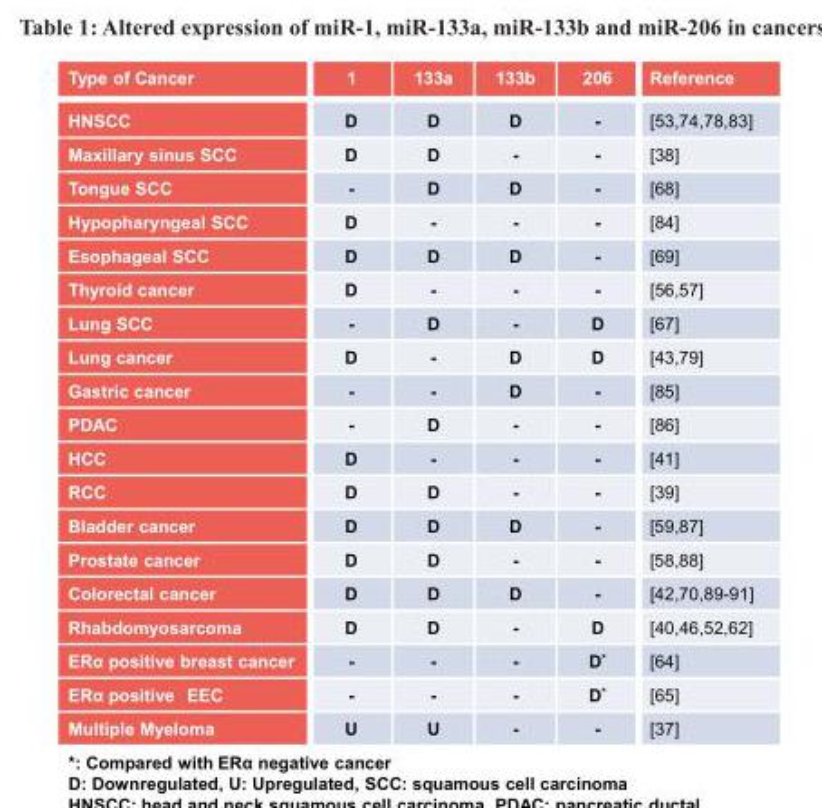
<table><thead><tr><td>Type of Cancer</td><td>1</td><td>133a</td><td>133b</td><td>206</td><td>Reference</td></tr></thead><tbody><tr><td>HNSCC</td><td>D</td><td>D</td><td>D</td><td>-</td><td>[53,74,78,83]</td></tr><tr><td>Maxillary sinus SCC</td><td>D</td><td>D</td><td>-</td><td>-</td><td>[38]</td></tr><tr><td>Tongue SCC</td><td>-</td><td>D</td><td>D</td><td>-</td><td>[68]</td></tr><tr><td>Hypopharyngeal SCC</td><td>D</td><td>-</td><td>-</td><td>-</td><td>[84]</td></tr><tr><td>Esophageal SCC</td><td>D</td><td>D</td><td>D</td><td>-</td><td>[69]</td></tr><tr><td>Thyroid cancer</td><td>D</td><td>-</td><td>-</td><td>-</td><td>[56,57]</td></tr><tr><td>Lung SCC</td><td>-</td><td>D</td><td>-</td><td>D</td><td>[67]</td></tr><tr><td>Lung cancer</td><td>D</td><td>-</td><td>D</td><td>D</td><td>[43,79]</td></tr><tr><td>Gastric cancer</td><td>-</td><td>-</td><td>D</td><td>-</td><td>[85]</td></tr><tr><td>PDAC</td><td>-</td><td>D</td><td>-</td><td>-</td><td>[86]</td></tr><tr><td>HCC</td><td>D</td><td>-</td><td>-</td><td>-</td><td>[41]</td></tr><tr><td>RCC</td><td>D</td><td>D</td><td>-</td><td>-</td><td>[39]</td></tr><tr><td>Bladder cancer</td><td>D</td><td>D</td><td>D</td><td>-</td><td>[59,87]</td></tr><tr><td>Prostate cancer</td><td>D</td><td>D</td><td>-</td><td>-</td><td>[58,88]</td></tr><tr><td>Colorectal cancer</td><td>D</td><td>D</td><td>D</td><td>-</td><td>[42,70,89-91]</td></tr><tr><td>Rhabdomyosarcoma</td><td>D</td><td>D</td><td>-</td><td>D</td><td>[40,46,52,62]</td></tr><tr><td>ERα positive breast cancer</td><td>-</td><td>-</td><td>-</td><td>D*</td><td>[64]</td></tr><tr><td>ERα positive EEC</td><td>-</td><td>-</td><td>-</td><td>D*</td><td>[65]</td></tr><tr><td>Multiple Myeloma</td><td>U</td><td>U</td><td>-</td><td>-</td><td>[37]</td></tr></tbody></table>